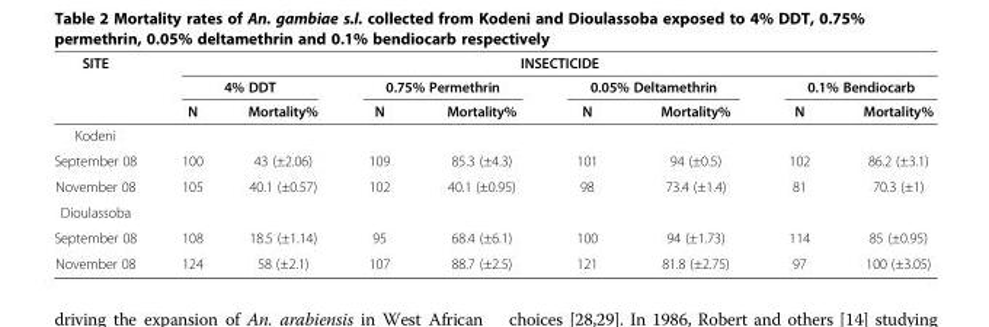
<table><thead><tr><td rowspan="3">SITE</td><td colspan="8">INSECTICIDE</td></tr><tr><td colspan="2">4% DDT</td><td colspan="2">0.75% Permethrin</td><td colspan="2">0.05% Deltamethrin</td><td colspan="2">0.1% Bendiocarb</td></tr><tr><td>N</td><td>Mortality%</td><td>N</td><td>Mortality%</td><td>N</td><td>Mortality%</td><td>N</td><td>Mortality%</td></tr></thead><tbody><tr><td colspan="9">Kodeni</td></tr><tr><td>September 08</td><td>100</td><td>43 (±2.06)</td><td>109</td><td>85.3 (±4.3)</td><td>101</td><td>94 (±0.5)</td><td>102</td><td>86.2 (±3.1)</td></tr><tr><td>November 08</td><td>105</td><td>40.1 (±0.57)</td><td>102</td><td>40.1 (±0.95)</td><td>98</td><td>73.4 (±1.4)</td><td>81</td><td>70.3 (±1)</td></tr><tr><td colspan="9">Dioulassoba</td></tr><tr><td>September 08</td><td>108</td><td>18.5 (±1.14)</td><td>95</td><td>68.4 (±6.1)</td><td>100</td><td>94 (±1.73)</td><td>114</td><td>85 (±0.95)</td></tr><tr><td>November 08</td><td>124</td><td>58 (±2.1)</td><td>107</td><td>88.7 (±2.5)</td><td>121</td><td>81.8 (±2.75)</td><td>97</td><td>100 (±3.05)</td></tr></tbody></table>